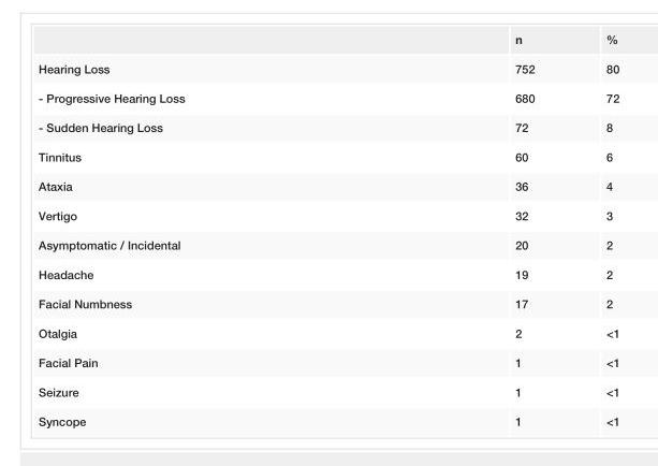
<table><thead><tr><td></td><td>n</td><td>%</td></tr></thead><tbody><tr><td>Hearing Loss</td><td>752</td><td>80</td></tr><tr><td>- Progressive Hearing Loss</td><td>680</td><td>72</td></tr><tr><td>- Sudden Hearing Loss</td><td>72</td><td>8</td></tr><tr><td>Tinnitus</td><td>60</td><td>6</td></tr><tr><td>Ataxia</td><td>36</td><td>4</td></tr><tr><td>Vertigo</td><td>32</td><td>3</td></tr><tr><td>Asymptomatic / Incidental</td><td>20</td><td>2</td></tr><tr><td>Headache</td><td>19</td><td>2</td></tr><tr><td>Facial Numbness</td><td>17</td><td>2</td></tr><tr><td>Otalgia</td><td>2</td><td>&lt;1</td></tr><tr><td>Facial Pain</td><td>1</td><td>&lt;1</td></tr><tr><td>Seizure</td><td>1</td><td>&lt;1</td></tr><tr><td>Syncope</td><td>1</td><td>&lt;1</td></tr></tbody></table>